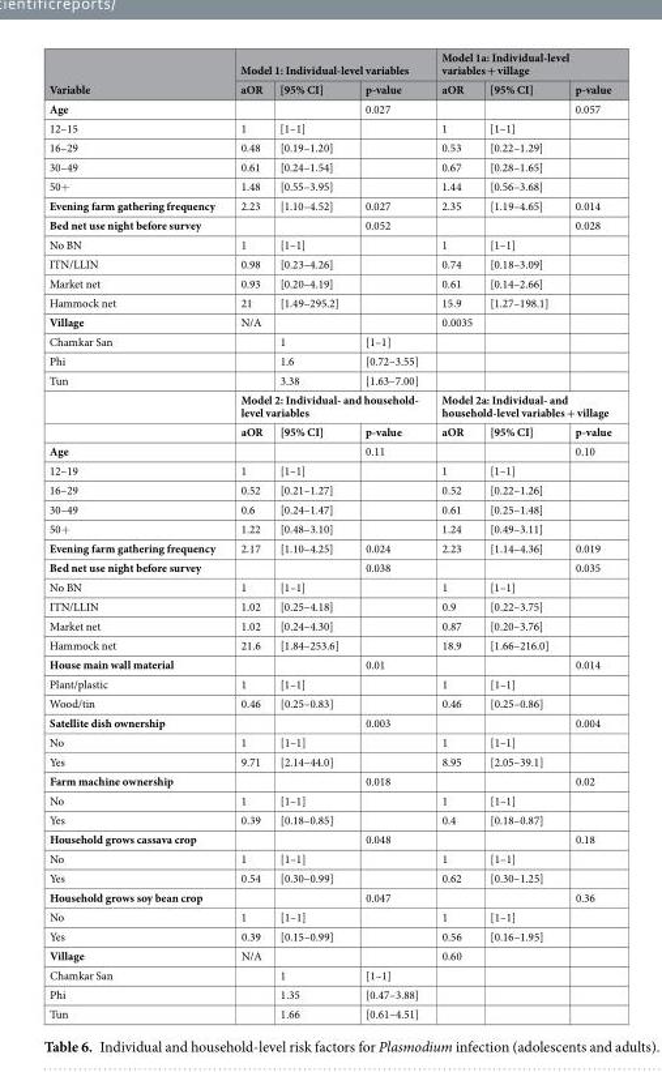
<table><thead><tr><td rowspan="2">Variable</td><td colspan="3">Model 1: Individual-level variables</td><td colspan="3">Model 1a: Individual-level variables + village</td></tr><tr><td>aOR</td><td>[95% CI]</td><td>p-value</td><td>aOR</td><td>[95% CI]</td><td>p-value</td></tr></thead><tbody><tr><td>Age</td><td></td><td></td><td>0.027</td><td></td><td></td><td>0.057</td></tr><tr><td>12–15</td><td>1</td><td>[1–1]</td><td></td><td>1</td><td>[1–1]</td><td></td></tr><tr><td>16–29</td><td>0.48</td><td>[0.19–1.20]</td><td></td><td>0.53</td><td>[0.22–1.29]</td><td></td></tr><tr><td>30–49</td><td>0.61</td><td>[0.24–1.54]</td><td></td><td>0.67</td><td>[0.28–1.65]</td><td></td></tr><tr><td>50+</td><td>1.48</td><td>[0.55–3.95]</td><td></td><td>1.44</td><td>[0.56–3.68]</td><td></td></tr><tr><td>Evening farm gathering frequency</td><td>2.23</td><td>[1.10–4.52]</td><td>0.027</td><td>2.35</td><td>[1.19–4.65]</td><td>0.014</td></tr><tr><td>Bed net use night before survey</td><td></td><td></td><td>0.052</td><td></td><td></td><td>0.028</td></tr><tr><td>No BN</td><td>1</td><td>[1–1]</td><td></td><td>1</td><td>[1–1]</td><td></td></tr><tr><td>ITN/LLIN</td><td>0.98</td><td>[0.23–4.26]</td><td></td><td>0.74</td><td>[0.18–3.09]</td><td></td></tr><tr><td>Market net</td><td>0.93</td><td>[0.20–4.19]</td><td></td><td>0.61</td><td>[0.14–2.66]</td><td></td></tr><tr><td>Hammock net</td><td>21</td><td>[1.49–295.2]</td><td></td><td>15.9</td><td>[1.27–198.1]</td><td></td></tr><tr><td>Village</td><td>N/A</td><td></td><td></td><td>0.0035</td><td></td><td></td></tr><tr><td>Chamkar San</td><td></td><td>1</td><td>[1–1]</td><td></td><td></td><td></td></tr><tr><td>Phi</td><td></td><td>1.6</td><td>[0.72–3.55]</td><td></td><td></td><td></td></tr><tr><td rowspan="3">Tun</td><td></td><td>3.38</td><td>[1.63–7.00]</td><td></td><td></td><td></td></tr><tr><td colspan="3">Model 2: Individual- and household- level variables</td><td colspan="3">Model 2a: Individual- and household-level variables + village</td></tr><tr><td>aOR</td><td>[95% CI]</td><td>p-value</td><td>aOR</td><td>[95% CI]</td><td>p-value</td></tr><tr><td>Age</td><td></td><td></td><td>0.11</td><td></td><td></td><td>0.10</td></tr><tr><td>12–19</td><td>1</td><td>[1–1]</td><td></td><td>1</td><td>[1–1]</td><td></td></tr><tr><td>16–29</td><td>0.52</td><td>[0.21–1.27]</td><td></td><td>0.52</td><td>[0.22–1.26]</td><td></td></tr><tr><td>30–49</td><td>0.6</td><td>[0.24–1.47]</td><td></td><td>0.61</td><td>[0.25–1.48]</td><td></td></tr><tr><td>50+</td><td>1.22</td><td>[0.48–3.10]</td><td></td><td>1.24</td><td>[0.49–3.11]</td><td></td></tr><tr><td>Evening farm gathering frequency</td><td>2.17</td><td>[1.10–4.25]</td><td>0.024</td><td>2.23</td><td>[1.14–4.36]</td><td>0.019</td></tr><tr><td>Bed net use night before survey</td><td></td><td></td><td>0.038</td><td></td><td></td><td>0.035</td></tr><tr><td>No BN</td><td>1</td><td>[1–1]</td><td></td><td>1</td><td>[1–1]</td><td></td></tr><tr><td>ITN/LLIN</td><td>1.02</td><td>[0.25–4.18]</td><td></td><td>0.9</td><td>[0.22–3.75]</td><td></td></tr><tr><td>Market net</td><td>1.02</td><td>[0.24–4.30]</td><td></td><td>0.87</td><td>[0.20–3.76]</td><td></td></tr><tr><td>Hammock net</td><td>21.6</td><td>[1.84–253.6]</td><td></td><td>18.9</td><td>[1.66–216.0]</td><td></td></tr><tr><td>House main wall material</td><td></td><td></td><td>0.01</td><td></td><td></td><td>0.014</td></tr><tr><td>Plant/plastic</td><td>1</td><td>[1–1]</td><td></td><td>1</td><td>[1–1]</td><td></td></tr><tr><td>Wood/tin</td><td>0.46</td><td>[0.25–0.83]</td><td></td><td>0.46</td><td>[0.25–0.86]</td><td></td></tr><tr><td>Satellite dish ownership</td><td></td><td></td><td>0.003</td><td></td><td></td><td>0.004</td></tr><tr><td>No</td><td>1</td><td>[1–1]</td><td></td><td>1</td><td>[1–1]</td><td></td></tr><tr><td>Yes</td><td>9.71</td><td>[2.14–44.0]</td><td></td><td>8.95</td><td>[2.05–39.1]</td><td></td></tr><tr><td>Farm machine ownership</td><td></td><td></td><td>0.018</td><td></td><td></td><td>0.02</td></tr><tr><td>No</td><td>1</td><td>[1–1]</td><td></td><td>1</td><td>[1–1]</td><td></td></tr><tr><td>Yes</td><td>0.39</td><td>[0.18–0.85]</td><td></td><td>0.4</td><td>[0.18–0.87]</td><td></td></tr><tr><td>Household grows cassava crop</td><td></td><td></td><td>0.048</td><td></td><td></td><td>0.18</td></tr><tr><td>No</td><td>1</td><td>[1–1]</td><td></td><td>1</td><td>[1–1]</td><td></td></tr><tr><td>Yes</td><td>0.54</td><td>[0.30–0.99]</td><td></td><td>0.62</td><td>[0.30–1.25]</td><td></td></tr><tr><td>Household grows soy bean crop</td><td></td><td></td><td>0.047</td><td></td><td></td><td>0.36</td></tr><tr><td>No</td><td>1</td><td>[1–1]</td><td></td><td>1</td><td>[1–1]</td><td></td></tr><tr><td>Yes</td><td>0.39</td><td>[0.15–0.99]</td><td></td><td>0.56</td><td>[0.16–1.95]</td><td></td></tr><tr><td>Village</td><td>N/A</td><td></td><td></td><td>0.60</td><td></td><td></td></tr><tr><td>Chamkar San</td><td></td><td>1</td><td>[1–1]</td><td></td><td></td><td></td></tr><tr><td>Phi</td><td></td><td>1.35</td><td>[0.47–3.88]</td><td></td><td></td><td></td></tr><tr><td>Tun</td><td></td><td>1.66</td><td>[0.61–4.51]</td><td></td><td></td><td></td></tr></tbody></table>